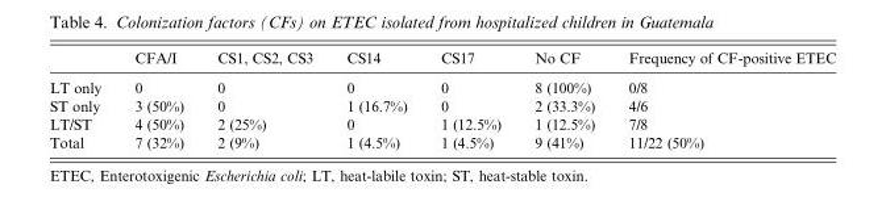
<table><thead><tr><td></td><td>CFA/I</td><td>CS1, CS2, CS3</td><td>CS14</td><td>CS17</td><td>No CF</td><td>Frequency of CF-positive ETEC</td></tr></thead><tbody><tr><td>LT only</td><td>0</td><td>0</td><td>0</td><td>0</td><td>8 (100%)</td><td>0/8</td></tr><tr><td>ST only</td><td>3 (50%)</td><td>0</td><td>1 (16.7%)</td><td>0</td><td>2 (33.3%)</td><td>4/6</td></tr><tr><td>LT/ST</td><td>4 (50%)</td><td>2 (25%)</td><td>0</td><td>1 (12.5%)</td><td>1 (12.5%)</td><td>7/8</td></tr><tr><td>Total</td><td>7 (32%)</td><td>2 (9%)</td><td>1 (4.5%)</td><td>1 (4.5%)</td><td>9 (41%)</td><td>11/22 (50%)</td></tr></tbody></table>